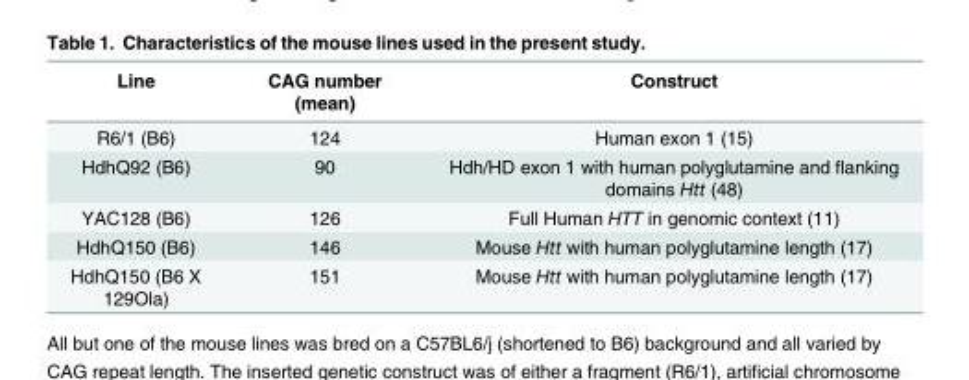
<table><thead><tr><td>Line</td><td>CAG number (mean)</td><td>Construct</td></tr></thead><tbody><tr><td>R6/1 (B6)</td><td>124</td><td>Human exon 1 (15)</td></tr><tr><td>HdhQ92 (B6)</td><td>90</td><td>Hdh/HD exon 1 with human polyglutamine and flanking domains Htt (48)</td></tr><tr><td>YAC128 (B6)</td><td>126</td><td>Full Human HTT in genomic context (11)</td></tr><tr><td>HdhQ150 (B6)</td><td>146</td><td>Mouse Htt with human polyglutamine length (17)</td></tr><tr><td>HdhQ150 (B6 X 129Ola)</td><td>151</td><td>Mouse Htt with human polyglutamine length (17)</td></tr></tbody></table>